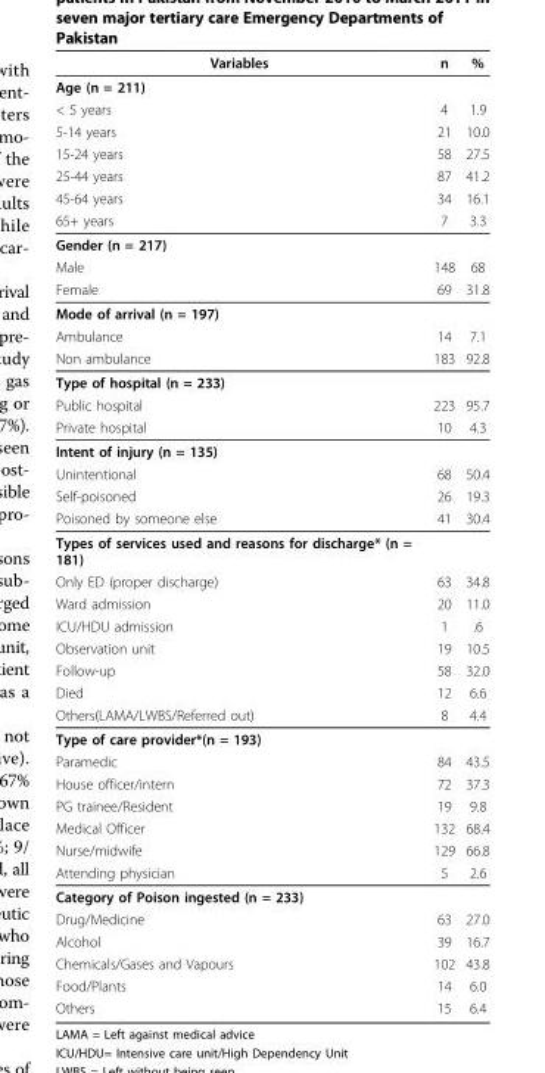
<table><thead><tr><td>Variables</td><td>n</td><td>%</td></tr></thead><tbody><tr><td colspan="3">Age (n = 211)</td></tr><tr><td>&lt; 5 years</td><td>4</td><td>1.9</td></tr><tr><td>5-14 years</td><td>21</td><td>10.0</td></tr><tr><td>15-24 years</td><td>58</td><td>27.5</td></tr><tr><td>25-44 years</td><td>87</td><td>41.2</td></tr><tr><td>45-64 years</td><td>34</td><td>16.1</td></tr><tr><td>65+ years</td><td>7</td><td>3.3</td></tr><tr><td colspan="3">Gender (n = 217)</td></tr><tr><td>Male</td><td>148</td><td>68</td></tr><tr><td>Female</td><td>69</td><td>31.8</td></tr><tr><td colspan="3">Mode of arrival (n = 197)</td></tr><tr><td>Ambulance</td><td>14</td><td>7.1</td></tr><tr><td>Non ambulance</td><td>183</td><td>92.8</td></tr><tr><td colspan="3">Type of hospital (n = 233)</td></tr><tr><td>Public hospital</td><td>223</td><td>95.7</td></tr><tr><td>Private hospital</td><td>10</td><td>4.3</td></tr><tr><td colspan="3">Intent of injury (n = 135)</td></tr><tr><td>Unintentional</td><td>68</td><td>50.4</td></tr><tr><td>Self-poisoned</td><td>26</td><td>19.3</td></tr><tr><td>Poisoned by someone else</td><td>41</td><td>30.4</td></tr><tr><td colspan="3">Types of services used and reasons for discharge* (n = 181)</td></tr><tr><td>Only ED (proper discharge)</td><td>63</td><td>34.8</td></tr><tr><td>Ward admission</td><td>20</td><td>11.0</td></tr><tr><td>ICU/HDU admission</td><td>1</td><td>.6</td></tr><tr><td>Observation unit</td><td>19</td><td>10.5</td></tr><tr><td>Follow-up</td><td>58</td><td>32.0</td></tr><tr><td>Died</td><td>12</td><td>6.6</td></tr><tr><td>Others(LAMA/LWBS/Referred out)</td><td>8</td><td>4.4</td></tr><tr><td colspan="3">Type of care provider*(n = 193)</td></tr><tr><td>Paramedic</td><td>84</td><td>43.5</td></tr><tr><td>House officer/intern</td><td>72</td><td>37.3</td></tr><tr><td>PG trainee/Resident</td><td>19</td><td>9.8</td></tr><tr><td>Medical Officer</td><td>132</td><td>68.4</td></tr><tr><td>Nurse/midwife</td><td>129</td><td>66.8</td></tr><tr><td>Attending physician</td><td>5</td><td>2.6</td></tr><tr><td colspan="3">Category of Poison ingested (n = 233)</td></tr><tr><td>Drug/Medicine</td><td>63</td><td>27.0</td></tr><tr><td>Alcohol</td><td>39</td><td>16.7</td></tr><tr><td>Chemicals/Gases and Vapours</td><td>102</td><td>43.8</td></tr><tr><td>Food/Plants</td><td>14</td><td>6.0</td></tr><tr><td>Others</td><td>15</td><td>6.4</td></tr></tbody></table>